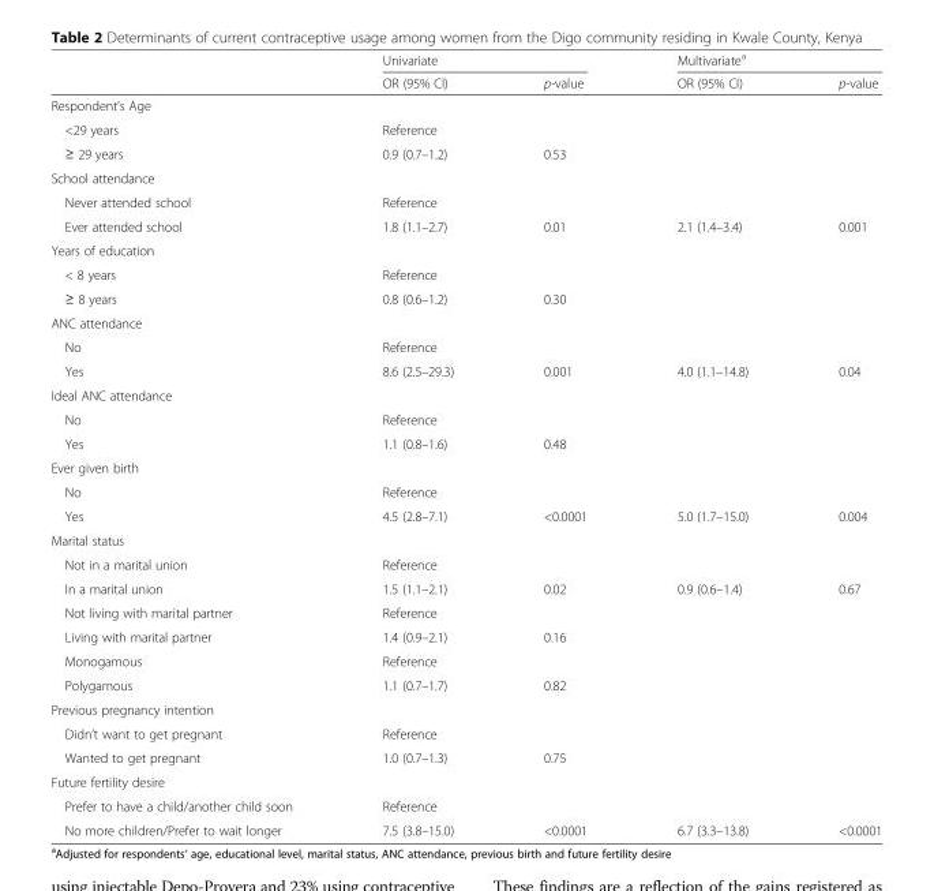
<table><thead><tr><td rowspan="2"></td><td colspan="2">Univariate</td><td colspan="2">Multivariate<sup>a</sup></td></tr><tr><td>OR (95% CI)</td><td>p-value</td><td>OR (95% CI)</td><td>p-value</td></tr></thead><tbody><tr><td colspan="5">Respondent’s Age</td></tr><tr><td>&lt;29 years</td><td>Reference</td><td></td><td></td><td></td></tr><tr><td>≥ 29 years</td><td>0.9 (0.7–1.2)</td><td>0.53</td><td></td><td></td></tr><tr><td colspan="5">School attendance</td></tr><tr><td>Never attended school</td><td>Reference</td><td></td><td></td><td></td></tr><tr><td>Ever attended school</td><td>1.8 (1.1–2.7)</td><td>0.01</td><td>2.1 (1.4–3.4)</td><td>0.001</td></tr><tr><td colspan="5">Years of education</td></tr><tr><td>&lt; 8 years</td><td>Reference</td><td></td><td></td><td></td></tr><tr><td>≥ 8 years</td><td>0.8 (0.6–1.2)</td><td>0.30</td><td></td><td></td></tr><tr><td colspan="5">ANC attendance</td></tr><tr><td>No</td><td>Reference</td><td></td><td></td><td></td></tr><tr><td>Yes</td><td>8.6 (2.5–29.3)</td><td>0.001</td><td>4.0 (1.1–14.8)</td><td>0.04</td></tr><tr><td colspan="5">Ideal ANC attendance</td></tr><tr><td>No</td><td>Reference</td><td></td><td></td><td></td></tr><tr><td>Yes</td><td>1.1 (0.8–1.6)</td><td>0.48</td><td></td><td></td></tr><tr><td colspan="5">Ever given birth</td></tr><tr><td>No</td><td>Reference</td><td></td><td></td><td></td></tr><tr><td>Yes</td><td>4.5 (2.8–7.1)</td><td>&lt;0.0001</td><td>5.0 (1.7–15.0)</td><td>0.004</td></tr><tr><td colspan="5">Marital status</td></tr><tr><td>Not in a marital union</td><td>Reference</td><td></td><td></td><td></td></tr><tr><td>In a marital union</td><td>1.5 (1.1–2.1)</td><td>0.02</td><td>0.9 (0.6–1.4)</td><td>0.67</td></tr><tr><td>Not living with marital partner</td><td>Reference</td><td></td><td></td><td></td></tr><tr><td>Living with marital partner</td><td>1.4 (0.9–2.1)</td><td>0.16</td><td></td><td></td></tr><tr><td>Monogamous</td><td>Reference</td><td></td><td></td><td></td></tr><tr><td>Polygamous</td><td>1.1 (0.7–1.7)</td><td>0.82</td><td></td><td></td></tr><tr><td colspan="5">Previous pregnancy intention</td></tr><tr><td>Didn’t want to get pregnant</td><td>Reference</td><td></td><td></td><td></td></tr><tr><td>Wanted to get pregnant</td><td>1.0 (0.7–1.3)</td><td>0.75</td><td></td><td></td></tr><tr><td colspan="5">Future fertility desire</td></tr><tr><td>Prefer to have a child/another child soon</td><td>Reference</td><td></td><td></td><td></td></tr><tr><td>No more children/Prefer to wait longer</td><td>7.5 (3.8–15.0)</td><td>&lt;0.0001</td><td>6.7 (3.3–13.8)</td><td>&lt;0.0001</td></tr></tbody></table>